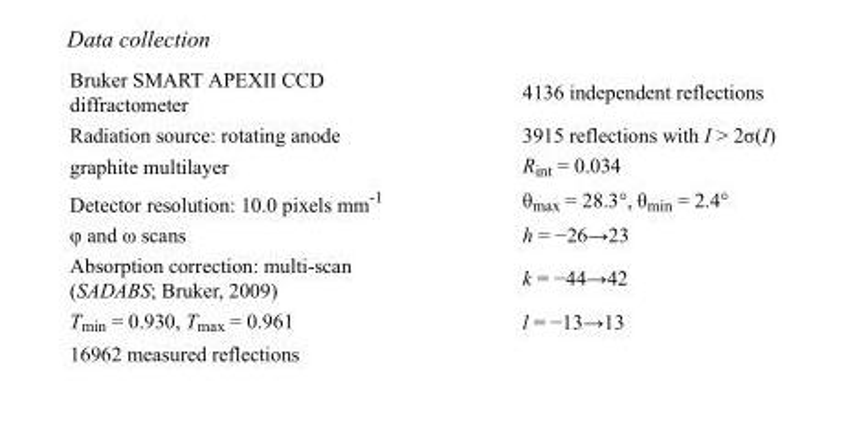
<table><tbody><tr><td>Bruker SMART APEXII CCD diffractometer</td><td>4136 independent reflections</td></tr><tr><td>Radiation source: rotating anode</td><td>3915 reflections with I &gt; 2σ(I)</td></tr><tr><td>graphite multilayer</td><td>R<sub>int</sub> = 0.034</td></tr><tr><td>Detector resolution: 10.0 pixels mm<sup>-1</sup></td><td>θ<sub>max</sub> = 28.3°, θ<sub>min</sub> = 2.4°</td></tr><tr><td>φ and ω scans</td><td>h = −26→23</td></tr><tr><td>Absorption correction: multi-scan (SADABS; Bruker, 2009)</td><td>k = −44→42</td></tr><tr><td>T<sub>min</sub> = 0.930, T<sub>max</sub> = 0.961</td><td>l = −13→13</td></tr><tr><td>16962 measured reflections</td><td></td></tr></tbody></table>